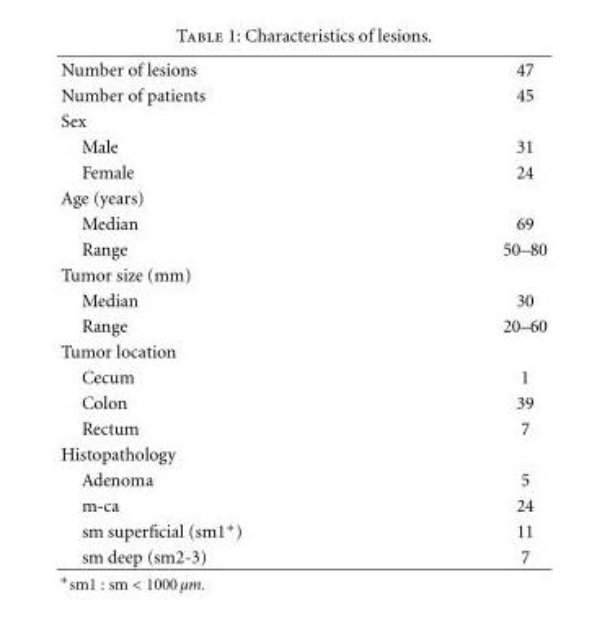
<table><tbody><tr><td>Number of lesions</td><td>47</td></tr><tr><td>Number of patients</td><td>45</td></tr><tr><td colspan="2">Sex</td></tr><tr><td>Male</td><td>31</td></tr><tr><td>Female</td><td>24</td></tr><tr><td colspan="2">Age (years)</td></tr><tr><td>Median</td><td>69</td></tr><tr><td>Range</td><td>50–80</td></tr><tr><td colspan="2">Tumor size (mm)</td></tr><tr><td>Median</td><td>30</td></tr><tr><td>Range</td><td>20–60</td></tr><tr><td colspan="2">Tumor location</td></tr><tr><td>Cecum</td><td>1</td></tr><tr><td>Colon</td><td>39</td></tr><tr><td>Rectum</td><td>7</td></tr><tr><td colspan="2">Histopathology</td></tr><tr><td>Adenoma</td><td>5</td></tr><tr><td>m-ca</td><td>24</td></tr><tr><td>sm superficial (sm1∗)</td><td>11</td></tr><tr><td>sm deep (sm2-3)</td><td>7</td></tr></tbody></table>